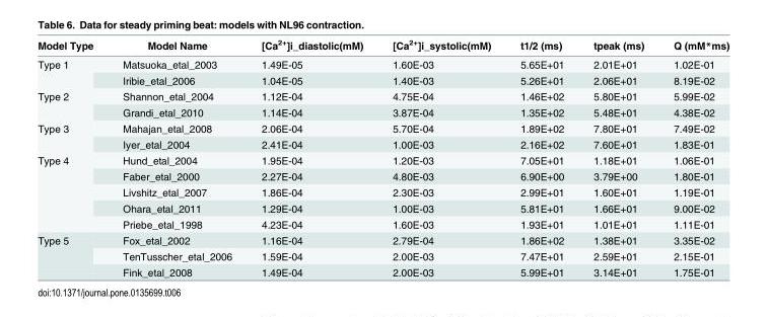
<table><thead><tr><td>Model Type</td><td>Model Name</td><td>[Ca<sup>2+</sup>]i_diastolic(mM)</td><td>[Ca<sup>2+</sup>]i_systolic(mM)</td><td>t1/2 (ms)</td><td>tpeak (ms)</td><td>Q (mM*ms)</td></tr></thead><tbody><tr><td rowspan="2">Type 1</td><td>Matsuoka_etal_2003</td><td>1.49E-05</td><td>1.60E-03</td><td>5.65E+01</td><td>2.01E+01</td><td>1.02E-01</td></tr><tr><td>Iribie_etal_2006</td><td>1.04E-05</td><td>1.40E-03</td><td>5.26E+01</td><td>2.06E+01</td><td>8.19E-02</td></tr><tr><td rowspan="2">Type 2</td><td>Shannon_etal_2004</td><td>1.12E-04</td><td>4.75E-04</td><td>1.46E+02</td><td>5.80E+01</td><td>5.99E-02</td></tr><tr><td>Grandi_etal_2010</td><td>1.14E-04</td><td>3.87E-04</td><td>1.35E+02</td><td>5.48E+01</td><td>4.38E-02</td></tr><tr><td rowspan="2">Type 3</td><td>Mahajan_etal_2008</td><td>2.06E-04</td><td>5.70E-04</td><td>1.89E+02</td><td>7.80E+01</td><td>7.49E-02</td></tr><tr><td>Iyer_etal_2004</td><td>2.41E-04</td><td>1.00E-03</td><td>2.16E+02</td><td>7.60E+01</td><td>1.83E-01</td></tr><tr><td rowspan="5">Type 4</td><td>Hund_etal_2004</td><td>1.95E-04</td><td>1.20E-03</td><td>7.05E+01</td><td>1.18E+01</td><td>1.06E-01</td></tr><tr><td>Faber_etal_2000</td><td>2.27E-04</td><td>4.80E-03</td><td>6.90E+00</td><td>3.79E+00</td><td>1.80E-01</td></tr><tr><td>Livshitz_etal_2007</td><td>1.86E-04</td><td>2.30E-03</td><td>2.99E+01</td><td>1.60E+01</td><td>1.19E-01</td></tr><tr><td>Ohara_etal_2011</td><td>1.29E-04</td><td>1.00E-03</td><td>5.81E+01</td><td>1.66E+01</td><td>9.00E-02</td></tr><tr><td>Priebe_etal_1998</td><td>4.23E-04</td><td>1.60E-03</td><td>1.93E+01</td><td>1.01E+01</td><td>1.11E-01</td></tr><tr><td rowspan="3">Type 5</td><td>Fox_etal_2002</td><td>1.16E-04</td><td>2.79E-04</td><td>1.86E+02</td><td>1.38E+01</td><td>3.35E-02</td></tr><tr><td>TenTusscher_etal_2006</td><td>1.59E-04</td><td>2.00E-03</td><td>7.47E+01</td><td>2.59E+01</td><td>2.15E-01</td></tr><tr><td>Fink_etal_2008</td><td>1.49E-04</td><td>2.00E-03</td><td>5.99E+01</td><td>3.14E+01</td><td>1.75E-01</td></tr></tbody></table>